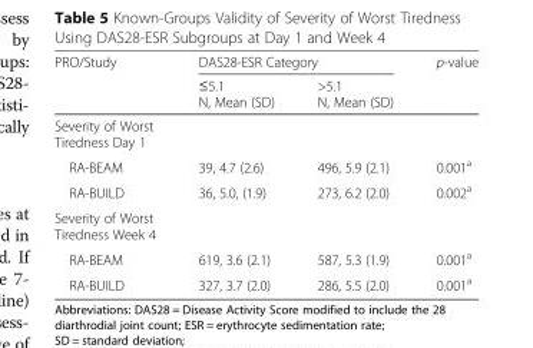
<table><thead><tr><td rowspan="2">PRO/Study</td><td colspan="2">DAS28-ESR Category</td><td rowspan="2">p-value</td></tr><tr><td>≤5.1 N, Mean (SD)</td><td>&gt;5.1 N, Mean (SD)</td></tr></thead><tbody><tr><td colspan="4">Severity of Worst Tiredness Day 1</td></tr><tr><td>RA-BEAM</td><td>39, 4.7 (2.6)</td><td>496, 5.9 (2.1)</td><td>0.001<sup>a</sup></td></tr><tr><td>RA-BUILD</td><td>36, 5.0, (1.9)</td><td>273, 6.2 (2.0)</td><td>0.002<sup>a</sup></td></tr><tr><td colspan="4">Severity of Worst Tiredness Week 4</td></tr><tr><td>RA-BEAM</td><td>619, 3.6 (2.1)</td><td>587, 5.3 (1.9)</td><td>0.001<sup>a</sup></td></tr><tr><td>RA-BUILD</td><td>327, 3.7 (2.0)</td><td>286, 5.5 (2.0)</td><td>0.001<sup>a</sup></td></tr></tbody></table>